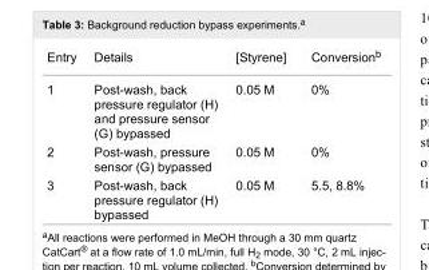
<table><tbody><tr><td>Entry</td><td>Details</td><td>[Styrene]</td><td>Conversion<sup>b</sup></td></tr><tr><td>1</td><td>Post-wash, back pressure regulator (H) and pressure sensor (G) bypassed</td><td>0.05 M</td><td>0%</td></tr><tr><td>2</td><td>Post-wash, pressure sensor (G) bypassed</td><td>0.05 M</td><td>0%</td></tr><tr><td>3</td><td>Post-wash, back pressure regulator (H) bypassed</td><td>0.05 M</td><td>5.5, 8.8%</td></tr></tbody></table>